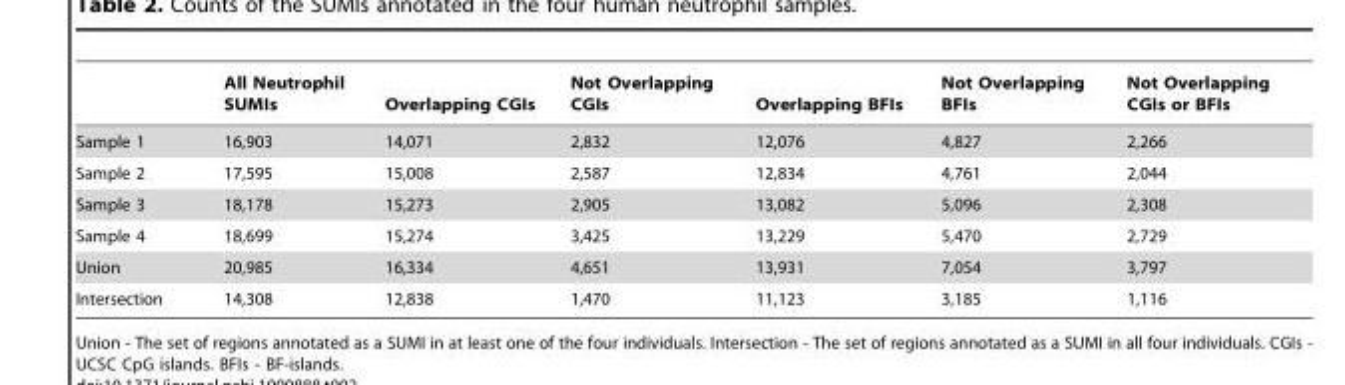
<table><thead><tr><td></td><td>All Neutrophil SUMIs</td><td>Overlapping CGIs</td><td>Not Overlapping CGIs</td><td>Overlapping BFIs</td><td>Not Overlapping BFIs</td><td>Not Overlapping CGIs or BFIs</td></tr></thead><tbody><tr><td>Sample 1</td><td>16,903</td><td>14,071</td><td>2,832</td><td>12,076</td><td>4,827</td><td>2,266</td></tr><tr><td>Sample 2</td><td>17,595</td><td>15,008</td><td>2,587</td><td>12,834</td><td>4,761</td><td>2,044</td></tr><tr><td>Sample 3</td><td>18,178</td><td>15,273</td><td>2,905</td><td>13,082</td><td>5,096</td><td>2,308</td></tr><tr><td>Sample 4</td><td>18,699</td><td>15,274</td><td>3,425</td><td>13,229</td><td>5,470</td><td>2,729</td></tr><tr><td>Union</td><td>20,985</td><td>16,334</td><td>4,651</td><td>13,931</td><td>7,054</td><td>3,797</td></tr><tr><td>Intersection</td><td>14,308</td><td>12,838</td><td>1,470</td><td>11,123</td><td>3,185</td><td>1,116</td></tr></tbody></table>